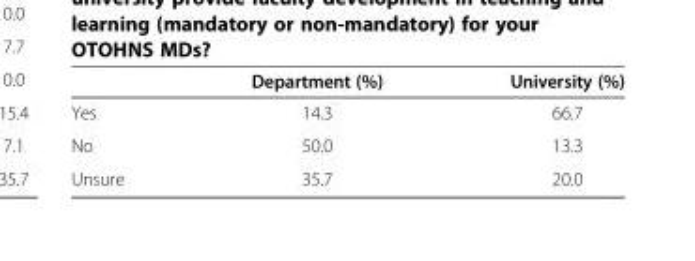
<table><thead><tr><td></td><td>Department (%)</td><td>University (%)</td></tr></thead><tbody><tr><td>Yes</td><td>14.3</td><td>66.7</td></tr><tr><td>No</td><td>50.0</td><td>13.3</td></tr><tr><td>Unsure</td><td>35.7</td><td>20.0</td></tr></tbody></table>